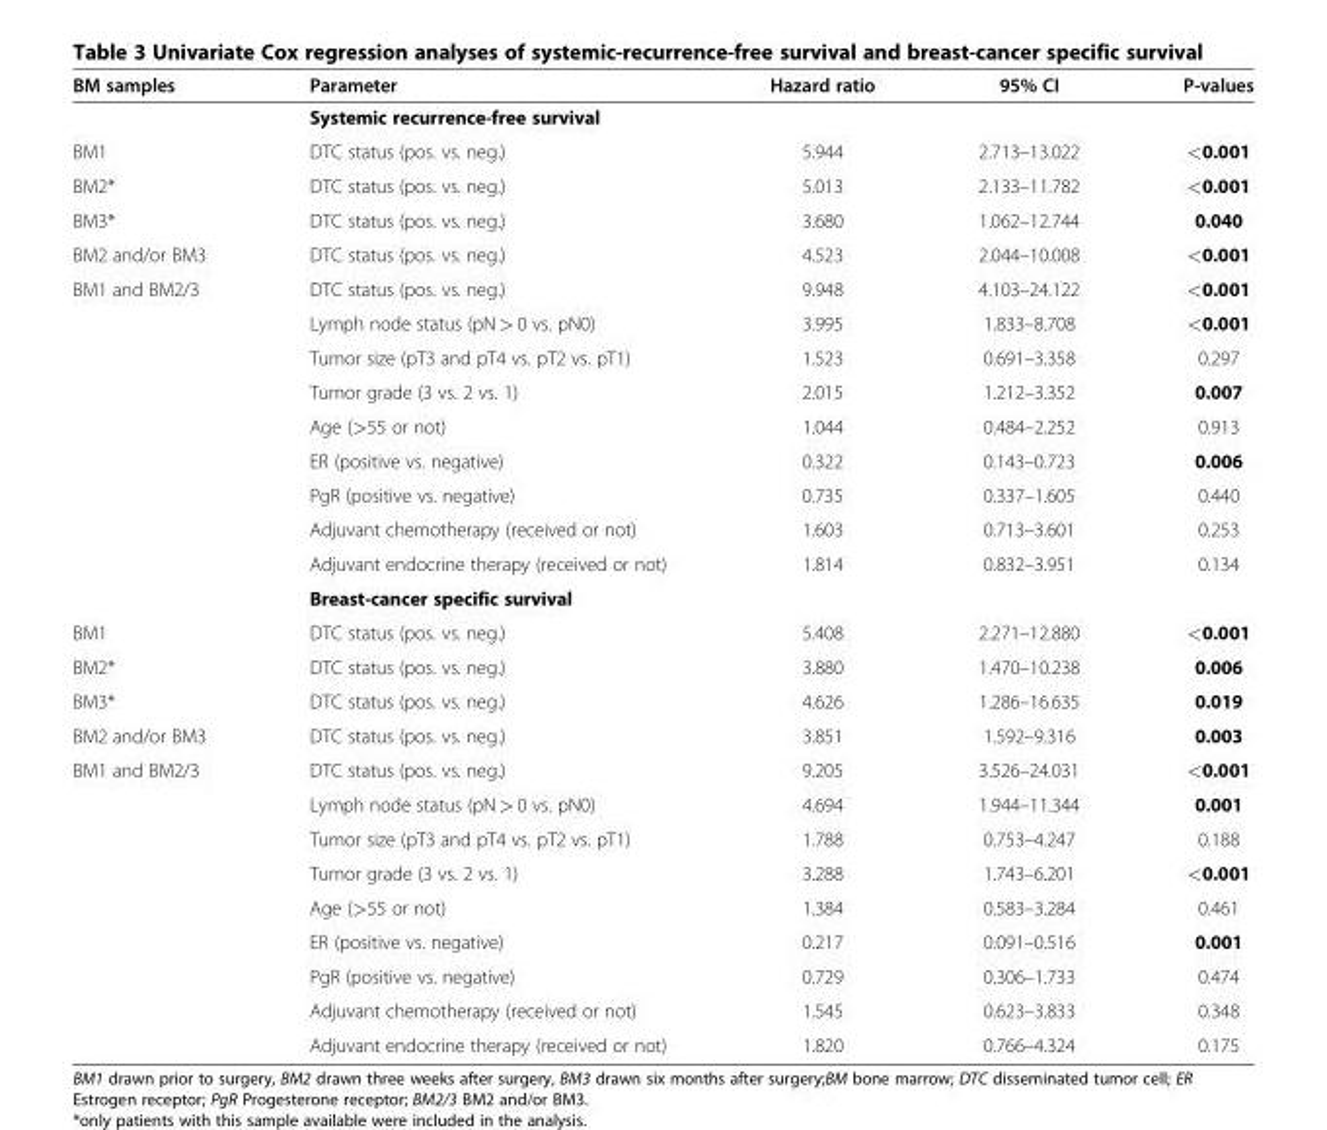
<table><thead><tr><td>BM samples</td><td>Parameter</td><td>Hazard ratio</td><td>95% CI</td><td>P-values</td></tr></thead><tbody><tr><td></td><td>Systemic recurrence-free survival</td><td></td><td></td><td></td></tr><tr><td>BM1</td><td>DTC status (pos. vs. neg.)</td><td>5.944</td><td>2.713–13.022</td><td>&lt;0.001</td></tr><tr><td>BM2*</td><td>DTC status (pos. vs. neg.)</td><td>5.013</td><td>2.133–11.782</td><td>&lt;0.001</td></tr><tr><td>BM3*</td><td>DTC status (pos. vs. neg.)</td><td>3.680</td><td>1.062–12.744</td><td>0.040</td></tr><tr><td>BM2 and/or BM3</td><td>DTC status (pos. vs. neg.)</td><td>4.523</td><td>2.044–10.008</td><td>&lt;0.001</td></tr><tr><td rowspan="10">BM1 and BM2/3</td><td>DTC status (pos. vs. neg.)</td><td>9.948</td><td>4.103–24.122</td><td>&lt;0.001</td></tr><tr><td>Lymph node status (pN &gt; 0 vs. pN0)</td><td>3.995</td><td>1.833–8.708</td><td>&lt;0.001</td></tr><tr><td>Tumor size (pT3 and pT4 vs. pT2 vs. pT1)</td><td>1.523</td><td>0.691–3.358</td><td>0.297</td></tr><tr><td>Tumor grade (3 vs. 2 vs. 1)</td><td>2.015</td><td>1.212–3.352</td><td>0.007</td></tr><tr><td>Age (&gt;55 or not)</td><td>1.044</td><td>0.484–2.252</td><td>0.913</td></tr><tr><td>ER (positive vs. negative)</td><td>0.322</td><td>0.143–0.723</td><td>0.006</td></tr><tr><td>PgR (positive vs. negative)</td><td>0.735</td><td>0.337–1.605</td><td>0.440</td></tr><tr><td>Adjuvant chemotherapy (received or not)</td><td>1.603</td><td>0.713–3.601</td><td>0.253</td></tr><tr><td>Adjuvant endocrine therapy (received or not)</td><td>1.814</td><td>0.832–3.951</td><td>0.134</td></tr><tr><td>Breast-cancer specific survival</td><td></td><td></td><td></td></tr><tr><td>BM1</td><td>DTC status (pos. vs. neg.)</td><td>5.408</td><td>2.271–12.880</td><td>&lt;0.001</td></tr><tr><td>BM2*</td><td>DTC status (pos. vs. neg.)</td><td>3.880</td><td>1.470–10.238</td><td>0.006</td></tr><tr><td>BM3*</td><td>DTC status (pos. vs. neg.)</td><td>4.626</td><td>1.286–16.635</td><td>0.019</td></tr><tr><td>BM2 and/or BM3</td><td>DTC status (pos. vs. neg.)</td><td>3.851</td><td>1.592–9.316</td><td>0.003</td></tr><tr><td rowspan="9">BM1 and BM2/3</td><td>DTC status (pos. vs. neg.)</td><td>9.205</td><td>3.526–24.031</td><td>&lt;0.001</td></tr><tr><td>Lymph node status (pN &gt; 0 vs. pN0)</td><td>4.694</td><td>1.944–11.344</td><td>0.001</td></tr><tr><td>Tumor size (pT3 and pT4 vs. pT2 vs. pT1)</td><td>1.788</td><td>0.753–4.247</td><td>0.188</td></tr><tr><td>Tumor grade (3 vs. 2 vs. 1)</td><td>3.288</td><td>1.743–6.201</td><td>&lt;0.001</td></tr><tr><td>Age (&gt;55 or not)</td><td>1.384</td><td>0.583–3.284</td><td>0.461</td></tr><tr><td>ER (positive vs. negative)</td><td>0.217</td><td>0.091–0.516</td><td>0.001</td></tr><tr><td>PgR (positive vs. negative)</td><td>0.729</td><td>0.306–1.733</td><td>0.474</td></tr><tr><td>Adjuvant chemotherapy (received or not)</td><td>1.545</td><td>0.623–3.833</td><td>0.348</td></tr><tr><td>Adjuvant endocrine therapy (received or not)</td><td>1.820</td><td>0.766–4.324</td><td>0.175</td></tr></tbody></table>